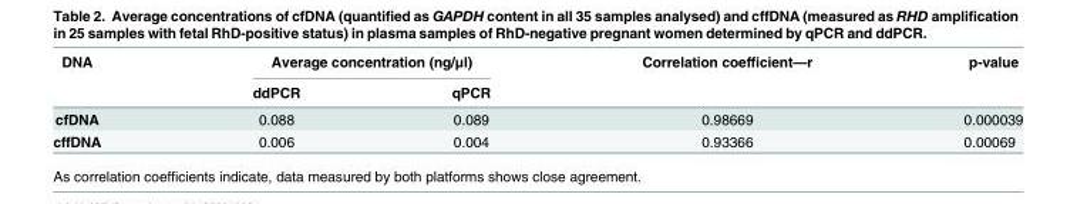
<table><thead><tr><td rowspan="2">DNA</td><td colspan="2">Average concentration (ng/μl)</td><td rowspan="2">Correlation coefficient—r</td><td rowspan="2">p-value</td></tr><tr><td>ddPCR</td><td>qPCR</td></tr></thead><tbody><tr><td>cfDNA</td><td>0.088</td><td>0.089</td><td>0.98669</td><td>0.000039</td></tr><tr><td>cffDNA</td><td>0.006</td><td>0.004</td><td>0.93366</td><td>0.00069</td></tr></tbody></table>